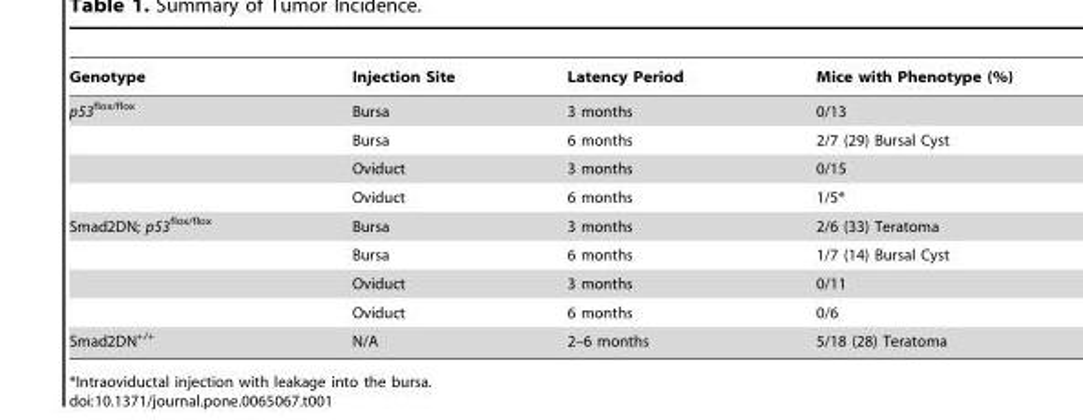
<table><thead><tr><td>Genotype</td><td>Injection Site</td><td>Latency Period</td><td>Mice with Phenotype (%)</td></tr></thead><tbody><tr><td rowspan="4">p53<sup>flox/flox</sup></td><td>Bursa</td><td>3 months</td><td>0/13</td></tr><tr><td>Bursa</td><td>6 months</td><td>2/7 (29) Bursal Cyst</td></tr><tr><td>Oviduct</td><td>3 months</td><td>0/15</td></tr><tr><td>Oviduct</td><td>6 months</td><td>1/5*</td></tr><tr><td rowspan="4">Smad2DN; p53<sup>flox/flox</sup></td><td>Bursa</td><td>3 months</td><td>2/6 (33) Teratoma</td></tr><tr><td>Bursa</td><td>6 months</td><td>1/7 (14) Bursal Cyst</td></tr><tr><td>Oviduct</td><td>3 months</td><td>0/11</td></tr><tr><td>Oviduct</td><td>6 months</td><td>0/6</td></tr><tr><td>Smad2DN<sup>+/+</sup></td><td>N/A</td><td>2–6 months</td><td>5/18 (28) Teratoma</td></tr></tbody></table>